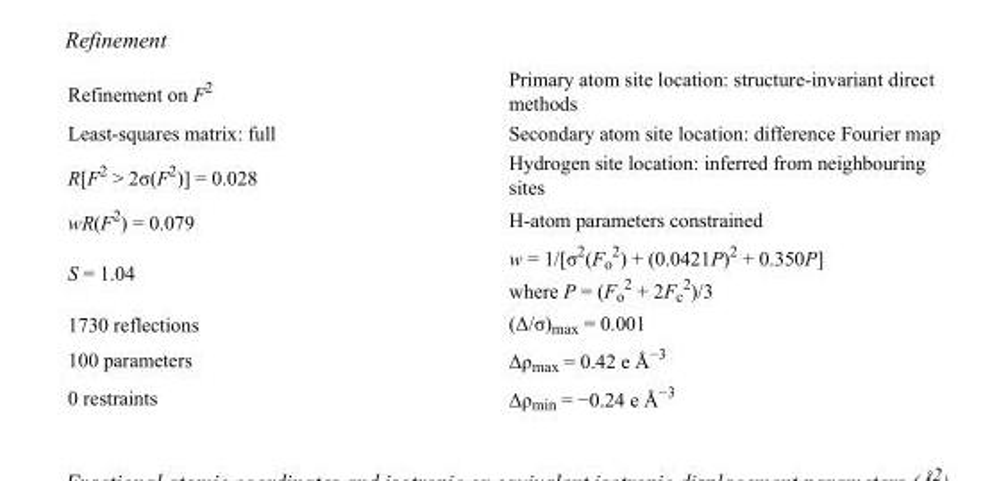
<table><tbody><tr><td>Refinement on F<sup>2</sup></td><td>Primary atom site location: structure-invariant direct methods</td></tr><tr><td>Least-squares matrix: full</td><td>Secondary atom site location: difference Fourier map</td></tr><tr><td>R[F<sup>2</sup> &gt; 2σ(F<sup>2</sup>)] = 0.028</td><td>Hydrogen site location: inferred from neighbouring sites</td></tr><tr><td>wR(F<sup>2</sup>) = 0.079</td><td>H-atom parameters constrained</td></tr><tr><td>S = 1.04</td><td>w = 1/[σ<sup>2</sup>(F<sub>o</sub> <sup>2</sup>) + (0.0421P)<sup>2</sup> + 0.350P] where P = (F<sub>o</sub> <sup>2</sup> + 2F<sub>c</sub> <sup>2</sup>)/3</td></tr><tr><td>1730 reflections</td><td>(Δ/σ)<sub>max</sub> = 0.001</td></tr><tr><td>100 parameters</td><td>Δρ<sub>max</sub> = 0.42 e Å<sup>−3</sup></td></tr><tr><td>0 restraints</td><td>Δρ<sub>min</sub> = −0.24 e Å<sup>−3</sup></td></tr></tbody></table>